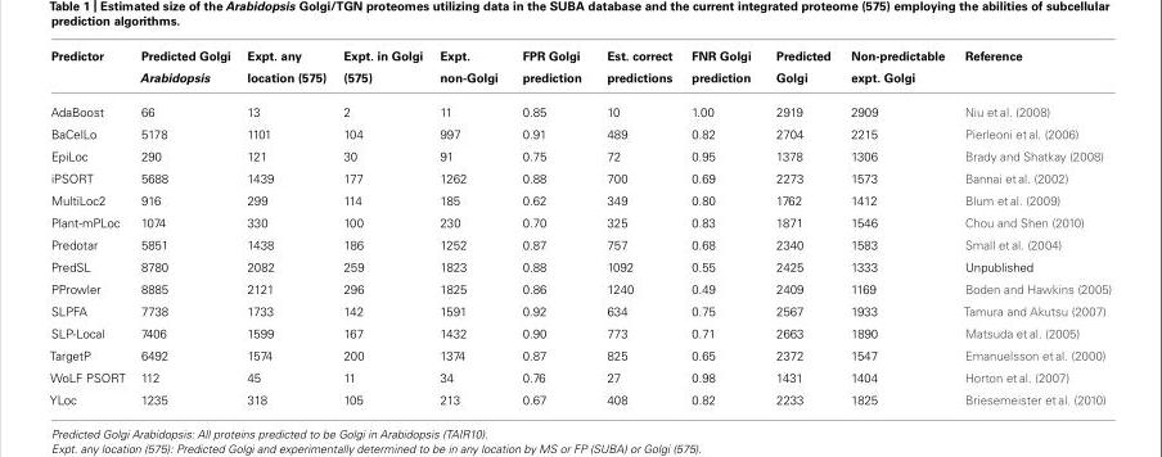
<table><thead><tr><td>Predictor</td><td>Predicted Golgi Arabidopsis</td><td>Expt. any location (575)</td><td>Expt. in Golgi (575)</td><td>Expt. non-Golgi</td><td>FPR Golgi prediction</td><td>Est. correct predictions</td><td>FNR Golgi prediction</td><td>Predicted Golgi</td><td>Non-predictable expt. Golgi</td><td>Reference</td></tr></thead><tbody><tr><td>AdaBoost</td><td>66</td><td>13</td><td>2</td><td>11</td><td>0.85</td><td>10</td><td>1.00</td><td>2919</td><td>2909</td><td>Niu et al. (2008)</td></tr><tr><td>BaCelLo</td><td>5178</td><td>1101</td><td>104</td><td>997</td><td>0.91</td><td>489</td><td>0.82</td><td>2704</td><td>2215</td><td>Pierleoni et al. (2006)</td></tr><tr><td>EpiLoc</td><td>290</td><td>121</td><td>30</td><td>91</td><td>0.75</td><td>72</td><td>0.95</td><td>1378</td><td>1306</td><td>Brady and Shatkay (2008)</td></tr><tr><td>iPSORT</td><td>5688</td><td>1439</td><td>177</td><td>1262</td><td>0.88</td><td>700</td><td>0.69</td><td>2273</td><td>1573</td><td>Bannai et al. (2002)</td></tr><tr><td>MultiLoc2</td><td>916</td><td>299</td><td>114</td><td>185</td><td>0.62</td><td>349</td><td>0.80</td><td>1762</td><td>1412</td><td>Blum et al. (2009)</td></tr><tr><td>Plant-mPLoc</td><td>1074</td><td>330</td><td>100</td><td>230</td><td>0.70</td><td>325</td><td>0.83</td><td>1871</td><td>1546</td><td>Chou and Shen (2010)</td></tr><tr><td>Predotar</td><td>5851</td><td>1438</td><td>186</td><td>1252</td><td>0.87</td><td>757</td><td>0.68</td><td>2340</td><td>1583</td><td>Small et al. (2004)</td></tr><tr><td>PredSL</td><td>8780</td><td>2082</td><td>259</td><td>1823</td><td>0.88</td><td>1092</td><td>0.55</td><td>2425</td><td>1333</td><td>Unpublished</td></tr><tr><td>PProwler</td><td>8885</td><td>2121</td><td>296</td><td>1825</td><td>0.86</td><td>1240</td><td>0.49</td><td>2409</td><td>1169</td><td>Boden and Hawkins (2005)</td></tr><tr><td>SLPFA</td><td>7738</td><td>1733</td><td>142</td><td>1591</td><td>0.92</td><td>634</td><td>0.75</td><td>2567</td><td>1933</td><td>Tamura and Akutsu (2007)</td></tr><tr><td>SLP-Local</td><td>7406</td><td>1599</td><td>167</td><td>1432</td><td>0.90</td><td>773</td><td>0.71</td><td>2663</td><td>1890</td><td>Matsuda et al. (2005)</td></tr><tr><td>TargetP</td><td>6492</td><td>1574</td><td>200</td><td>1374</td><td>0.87</td><td>825</td><td>0.65</td><td>2372</td><td>1547</td><td>Emanuelsson et al. (2000)</td></tr><tr><td>WoLF PSORT</td><td>112</td><td>45</td><td>11</td><td>34</td><td>0.76</td><td>27</td><td>0.98</td><td>1431</td><td>1404</td><td>Horton et al. (2007)</td></tr><tr><td>YLoc</td><td>1235</td><td>318</td><td>105</td><td>213</td><td>0.67</td><td>408</td><td>0.82</td><td>2233</td><td>1825</td><td>Briesemeister et al. (2010)</td></tr></tbody></table>